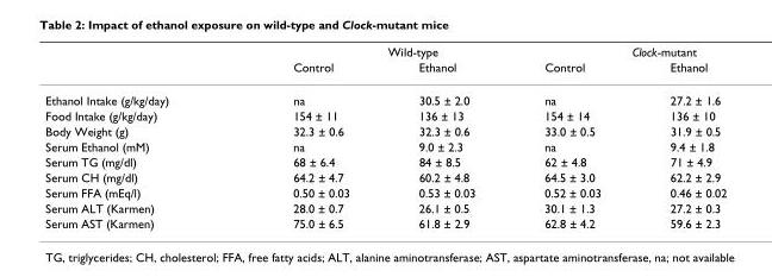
<table><thead><tr><td rowspan="2"></td><td colspan="2">Wild-type</td><td colspan="2">Clock-mutant</td></tr><tr><td>Control</td><td>Ethanol</td><td>Control</td><td>Ethanol</td></tr></thead><tbody><tr><td>Ethanol Intake (g/kg/day)</td><td>na</td><td>30.5 ± 2.0</td><td>na</td><td>27.2 ± 1.6</td></tr><tr><td>Food Intake (g/kg/day)</td><td>154 ± 11</td><td>136 ± 13</td><td>154 ± 14</td><td>136 ± 10</td></tr><tr><td>Body Weight (g)</td><td>32.3 ± 0.6</td><td>32.3 ± 0.6</td><td>33.0 ± 0.5</td><td>31.9 ± 0.5</td></tr><tr><td>Serum Ethanol (mM)</td><td>na</td><td>9.0 ± 2.3</td><td>na</td><td>9.4 ± 1.8</td></tr><tr><td>Serum TG (mg/dl)</td><td>68 ± 6.4</td><td>84 ± 8.5</td><td>62 ± 4.8</td><td>71 ± 4.9</td></tr><tr><td>Serum CH (mg/dl)</td><td>64.2 ± 4.7</td><td>60.2 ± 4.8</td><td>64.5 ± 3.0</td><td>62.2 ± 2.9</td></tr><tr><td>Serum FFA (mEq/l)</td><td>0.50 ± 0.03</td><td>0.53 ± 0.03</td><td>0.52 ± 0.03</td><td>0.46 ± 0.02</td></tr><tr><td>Serum ALT (Karmen)</td><td>28.0 ± 0.7</td><td>26.1 ± 0.5</td><td>30.1 ± 1.3</td><td>27.2 ± 0.3</td></tr><tr><td>Serum AST (Karmen)</td><td>75.0 ± 6.5</td><td>61.8 ± 2.9</td><td>62.8 ± 4.2</td><td>59.6 ± 2.3</td></tr></tbody></table>